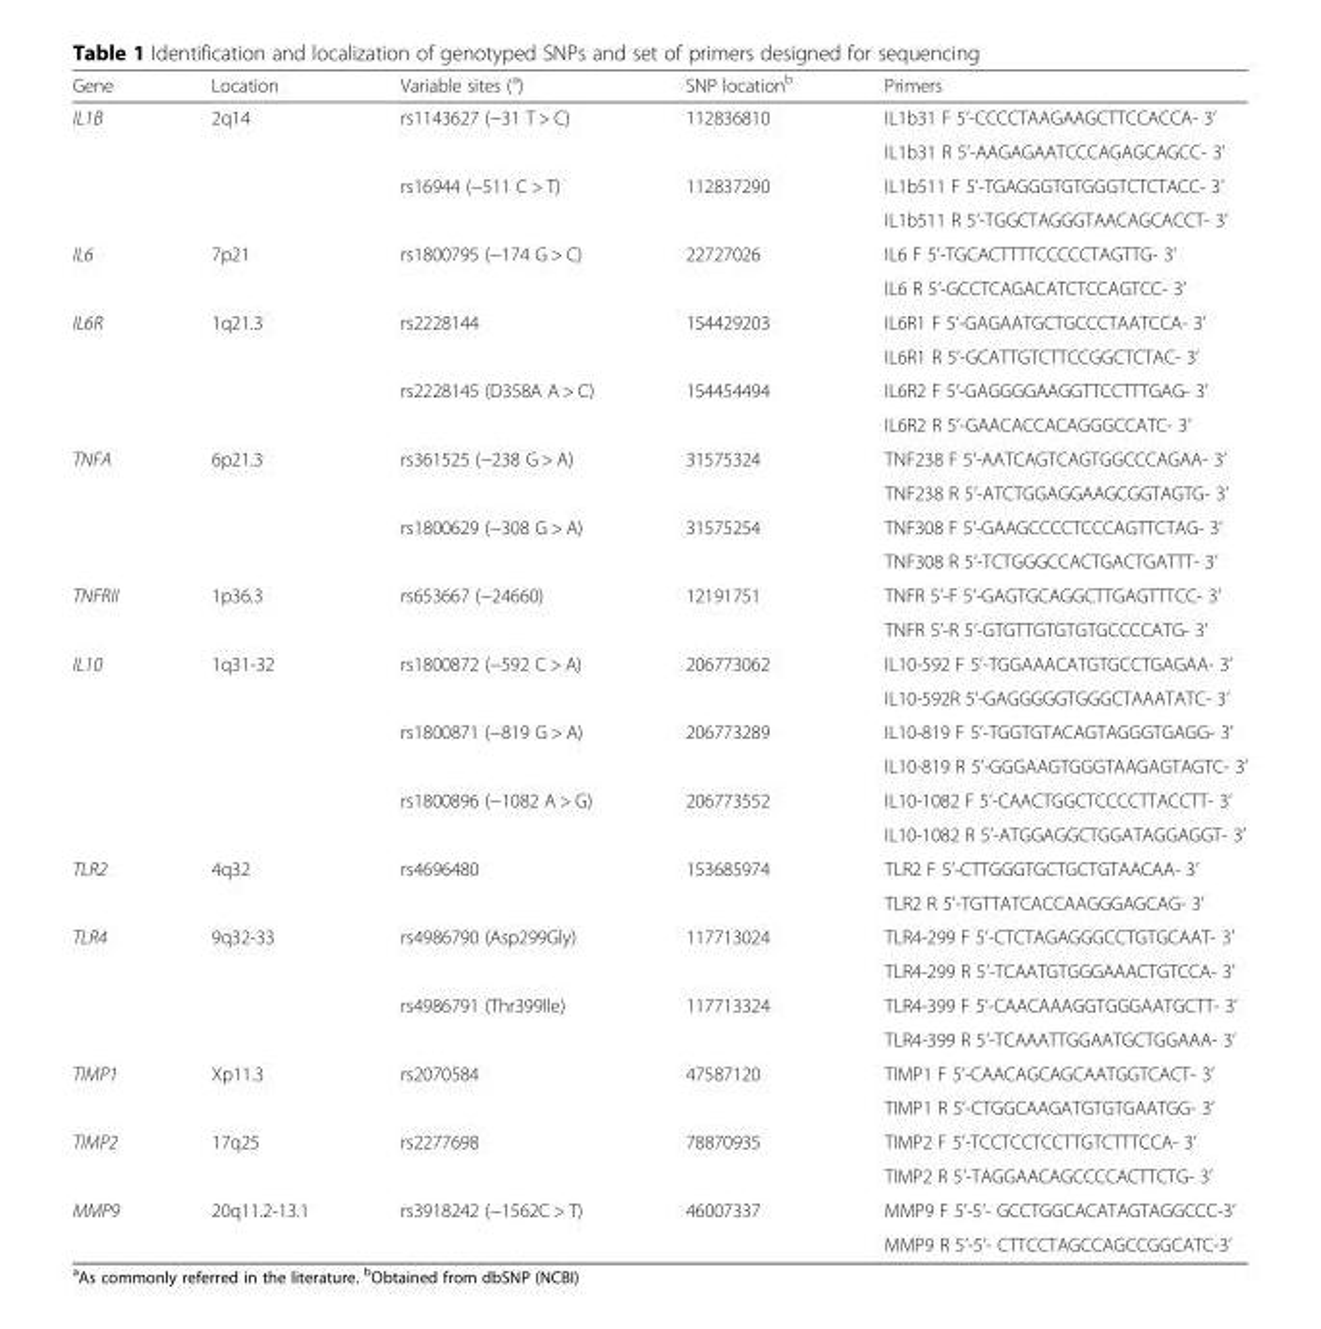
<table><thead><tr><td>Gene</td><td>Location</td><td>Variable sites (<sup>a</sup>)</td><td>SNP location<sup>b</sup></td><td>Primers</td></tr></thead><tbody><tr><td rowspan="4">IL1B</td><td rowspan="4">2q14</td><td rowspan="2">rs1143627 (−31 T &gt; C)</td><td rowspan="2">112836810</td><td>IL1b31 F 5’-CCCCTAAGAAGCTTCCACCA- 3’</td></tr><tr><td>IL1b31 R 5’-AAGAGAATCCCAGAGCAGCC- 3’</td></tr><tr><td rowspan="2">rs16944 (−511 C &gt; T)</td><td rowspan="2">112837290</td><td>IL1b511 F 5’-TGAGGGTGTGGGTCTCTACC- 3’</td></tr><tr><td>IL1b511 R 5’-TGGCTAGGGTAACAGCACCT- 3’</td></tr><tr><td rowspan="2">IL6</td><td rowspan="2">7p21</td><td rowspan="2">rs1800795 (−174 G &gt; C)</td><td rowspan="2">22727026</td><td>IL6 F 5’-TGCACTTTTCCCCCTAGTTG- 3’</td></tr><tr><td>IL6 R 5’-GCCTCAGACATCTCCAGTCC- 3’</td></tr><tr><td rowspan="4">IL6R</td><td rowspan="4">1q21.3</td><td rowspan="2">rs2228144</td><td rowspan="2">154429203</td><td>IL6R1 F 5’-GAGAATGCTGCCCTAATCCA- 3’</td></tr><tr><td>IL6R1 R 5’-GCATTGTCTTCCGGCTCTAC- 3’</td></tr><tr><td rowspan="2">rs2228145 (D358A A &gt; C)</td><td rowspan="2">154454494</td><td>IL6R2 F 5’-GAGGGGAAGGTTCCTTTGAG- 3’</td></tr><tr><td>IL6R2 R 5’-GAACACCACAGGGCCATC- 3’</td></tr><tr><td rowspan="4">TNFA</td><td rowspan="4">6p21.3</td><td rowspan="2">rs361525 (−238 G &gt; A)</td><td rowspan="2">31575324</td><td>TNF238 F 5’-AATCAGTCAGTGGCCCAGAA- 3’</td></tr><tr><td>TNF238 R 5’-ATCTGGAGGAAGCGGTAGTG- 3’</td></tr><tr><td rowspan="2">rs1800629 (−308 G &gt; A)</td><td rowspan="2">31575254</td><td>TNF308 F 5’-GAAGCCCCTCCCAGTTCTAG- 3’</td></tr><tr><td>TNF308 R 5’-TCTGGGCCACTGACTGATTT- 3’</td></tr><tr><td rowspan="2">TNFRII</td><td rowspan="2">1p36.3</td><td rowspan="2">rs653667 (−24660)</td><td rowspan="2">12191751</td><td>TNFR 5’-F 5’-GAGTGCAGGCTTGAGTTTCC- 3’</td></tr><tr><td>TNFR 5’-R 5’-GTGTTGTGTGTGCCCCATG- 3’</td></tr><tr><td rowspan="6">IL10</td><td rowspan="6">1q31-32</td><td rowspan="2">rs1800872 (−592 C &gt; A)</td><td rowspan="2">206773062</td><td>IL10-592 F 5’-TGGAAACATGTGCCTGAGAA- 3’</td></tr><tr><td>IL10-592R 5’-GAGGGGGTGGGCTAAATATC- 3’</td></tr><tr><td rowspan="2">rs1800871 (−819 G &gt; A)</td><td rowspan="2">206773289</td><td>IL10-819 F 5’-TGGTGTACAGTAGGGTGAGG- 3’</td></tr><tr><td>IL10-819 R 5’-GGGAAGTGGGTAAGAGTAGTC- 3’</td></tr><tr><td rowspan="2">rs1800896 (−1082 A &gt; G)</td><td rowspan="2">206773552</td><td>IL10-1082 F 5’-CAACTGGCTCCCCTTACCTT- 3’</td></tr><tr><td>IL10-1082 R 5’-ATGGAGGCTGGATAGGAGGT- 3’</td></tr><tr><td rowspan="2">TLR2</td><td rowspan="2">4q32</td><td rowspan="2">rs4696480</td><td rowspan="2">153685974</td><td>TLR2 F 5’-CTTGGGTGCTGCTGTAACAA- 3’</td></tr><tr><td>TLR2 R 5’-TGTTATCACCAAGGGAGCAG- 3’</td></tr><tr><td rowspan="4">TLR4</td><td rowspan="4">9q32-33</td><td rowspan="2">rs4986790 (Asp299Gly)</td><td rowspan="2">117713024</td><td>TLR4-299 F 5’-CTCTAGAGGGCCTGTGCAAT- 3’</td></tr><tr><td>TLR4-299 R 5’-TCAATGTGGGAAACTGTCCA- 3’</td></tr><tr><td rowspan="2">rs4986791 (Thr399Ile)</td><td rowspan="2">117713324</td><td>TLR4-399 F 5’-CAACAAAGGTGGGAATGCTT- 3’</td></tr><tr><td>TLR4-399 R 5’-TCAAATTGGAATGCTGGAAA- 3’</td></tr><tr><td rowspan="2">TIMP1</td><td rowspan="2">Xp11.3</td><td rowspan="2">rs2070584</td><td rowspan="2">47587120</td><td>TIMP1 F 5’-CAACAGCAGCAATGGTCACT- 3’</td></tr><tr><td>TIMP1 R 5’-CTGGCAAGATGTGTGAATGG- 3’</td></tr><tr><td rowspan="2">TIMP2</td><td rowspan="2">17q25</td><td rowspan="2">rs2277698</td><td rowspan="2">78870935</td><td>TIMP2 F 5’-TCCTCCTCCTTGTCTTTCCA- 3’</td></tr><tr><td>TIMP2 R 5’-TAGGAACAGCCCCACTTCTG- 3’</td></tr><tr><td rowspan="2">MMP9</td><td rowspan="2">20q11.2-13.1</td><td rowspan="2">rs3918242 (−1562C &gt; T)</td><td rowspan="2">46007337</td><td>MMP9 F 5’-5’- GCCTGGCACATAGTAGGCCC-3’</td></tr><tr><td>MMP9 R 5’-5’- CTTCCTAGCCAGCCGGCATC-3’</td></tr></tbody></table>